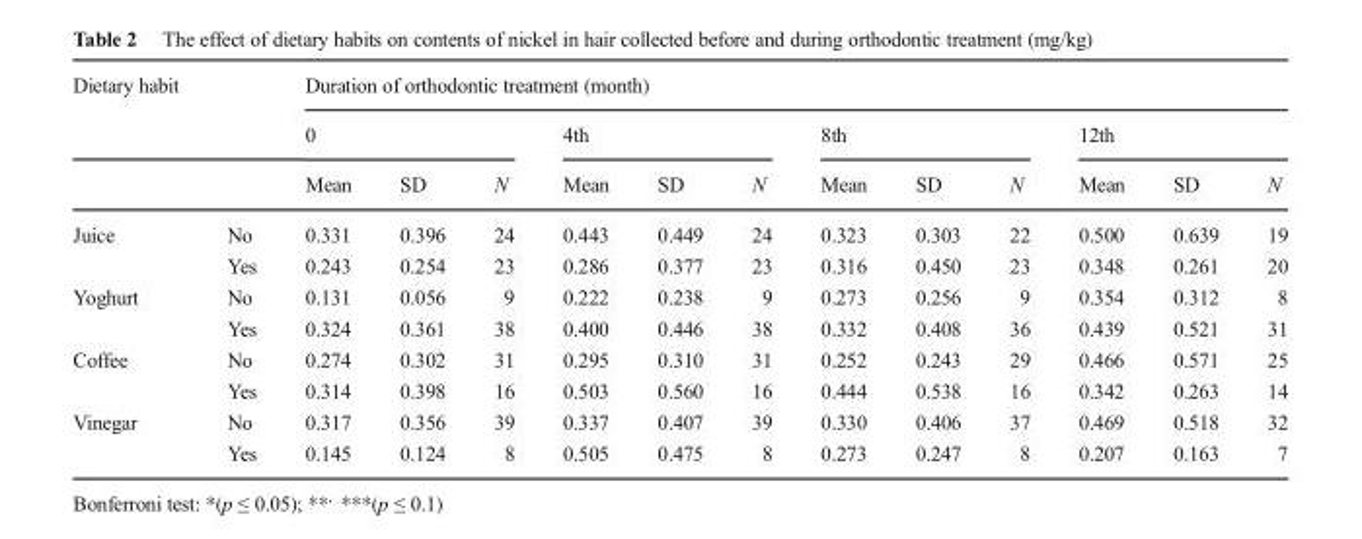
<table><thead><tr><td rowspan="3">Dietary habit</td><td rowspan="3"></td><td colspan="12">Duration of orthodontic treatment (month)</td></tr><tr><td colspan="3">0</td><td colspan="3">4th</td><td colspan="3">8th</td><td colspan="3">12th</td></tr><tr><td>Mean</td><td>SD</td><td>N</td><td>Mean</td><td>SD</td><td>N</td><td>Mean</td><td>SD</td><td>N</td><td>Mean</td><td>SD</td><td>N</td></tr></thead><tbody><tr><td rowspan="2">Juice</td><td>No</td><td>0.331</td><td>0.396</td><td>24</td><td>0.443</td><td>0.449</td><td>24</td><td>0.323</td><td>0.303</td><td>22</td><td>0.500</td><td>0.639</td><td>19</td></tr><tr><td>Yes</td><td>0.243</td><td>0.254</td><td>23</td><td>0.286</td><td>0.377</td><td>23</td><td>0.316</td><td>0.450</td><td>23</td><td>0.348</td><td>0.261</td><td>20</td></tr><tr><td rowspan="2">Yoghurt</td><td>No</td><td>0.131</td><td>0.056</td><td>9</td><td>0.222</td><td>0.238</td><td>9</td><td>0.273</td><td>0.256</td><td>9</td><td>0.354</td><td>0.312</td><td>8</td></tr><tr><td>Yes</td><td>0.324</td><td>0.361</td><td>38</td><td>0.400</td><td>0.446</td><td>38</td><td>0.332</td><td>0.408</td><td>36</td><td>0.439</td><td>0.521</td><td>31</td></tr><tr><td rowspan="2">Coffee</td><td>No</td><td>0.274</td><td>0.302</td><td>31</td><td>0.295</td><td>0.310</td><td>31</td><td>0.252</td><td>0.243</td><td>29</td><td>0.466</td><td>0.571</td><td>25</td></tr><tr><td>Yes</td><td>0.314</td><td>0.398</td><td>16</td><td>0.503</td><td>0.560</td><td>16</td><td>0.444</td><td>0.538</td><td>16</td><td>0.342</td><td>0.263</td><td>14</td></tr><tr><td rowspan="2">Vinegar</td><td>No</td><td>0.317</td><td>0.356</td><td>39</td><td>0.337</td><td>0.407</td><td>39</td><td>0.330</td><td>0.406</td><td>37</td><td>0.469</td><td>0.518</td><td>32</td></tr><tr><td>Yes</td><td>0.145</td><td>0.124</td><td>8</td><td>0.505</td><td>0.475</td><td>8</td><td>0.273</td><td>0.247</td><td>8</td><td>0.207</td><td>0.163</td><td>7</td></tr></tbody></table>